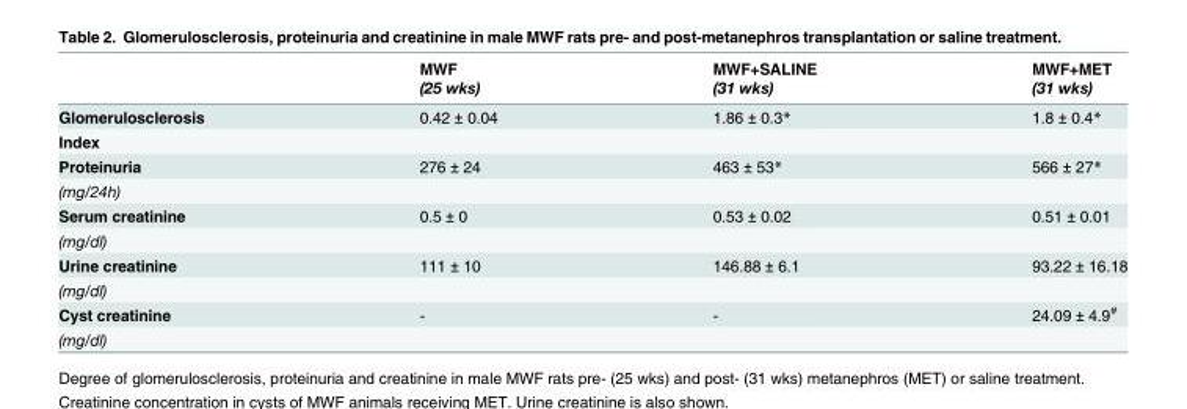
<table><thead><tr><td rowspan="2"></td><td rowspan="2">MWF (25 wks)</td><td rowspan="2">MWF+SALINE (31 wks)</td><td rowspan="2">MWF+MET (31 wks)</td></tr><tr></tr></thead><tbody><tr><td>Glomerulosclerosis</td><td>0.42 ± 0.04</td><td>1.86 ± 0.3*</td><td>1.8 ± 0.4*</td></tr><tr><td colspan="4">Index</td></tr><tr><td>Proteinuria</td><td>276 ± 24</td><td>463 ± 53*</td><td>566 ± 27*</td></tr><tr><td colspan="4">(mg/24h)</td></tr><tr><td>Serum creatinine</td><td>0.5 ± 0</td><td>0.53 ± 0.02</td><td>0.51 ± 0.01</td></tr><tr><td colspan="4">(mg/dl)</td></tr><tr><td>Urine creatinine</td><td>111 ± 10</td><td>146.88 ± 6.1</td><td>93.22 ± 16.18</td></tr><tr><td colspan="4">(mg/dl)</td></tr><tr><td>Cyst creatinine</td><td>-</td><td>-</td><td>24.09 ± 4.9<sup>#</sup></td></tr><tr><td>(mg/dl)</td><td></td><td></td><td></td></tr></tbody></table>